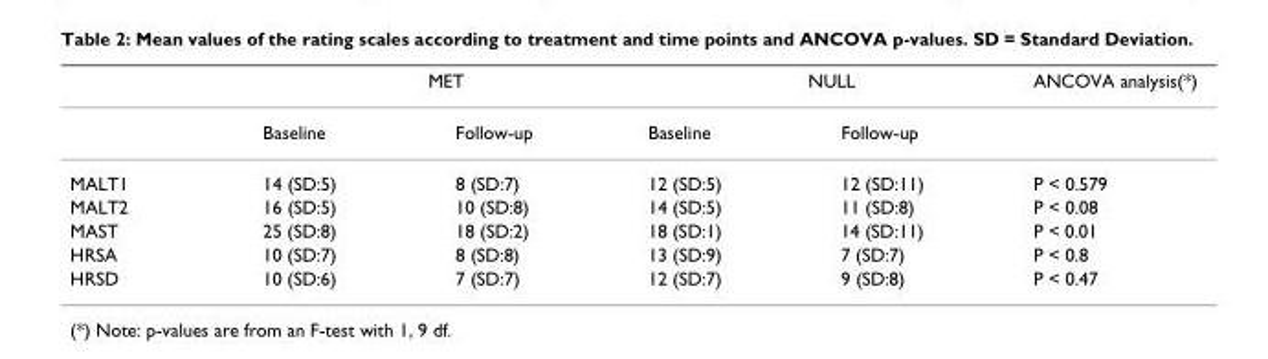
<table><thead><tr><td rowspan="2"></td><td colspan="2">MET</td><td colspan="2">NULL</td><td rowspan="2">ANCOVA analysis(*)</td></tr><tr><td>Baseline</td><td>Follow-up</td><td>Baseline</td><td>Follow-up</td></tr></thead><tbody><tr><td>MALT1</td><td>14 (SD:5)</td><td>8 (SD:7)</td><td>12 (SD:5)</td><td>12 (SD:11)</td><td>P &lt; 0.579</td></tr><tr><td>MALT2</td><td>16 (SD:5)</td><td>10 (SD:8)</td><td>14 (SD:5)</td><td>11 (SD:8)</td><td>P &lt; 0.08</td></tr><tr><td>MAST</td><td>25 (SD:8)</td><td>18 (SD:2)</td><td>18 (SD:1)</td><td>14 (SD:11)</td><td>P &lt; 0.01</td></tr><tr><td>HRSA</td><td>10 (SD:7)</td><td>8 (SD:8)</td><td>13 (SD:9)</td><td>7 (SD:7)</td><td>P &lt; 0.8</td></tr><tr><td>HRSD</td><td>10 (SD:6)</td><td>7 (SD:7)</td><td>12 (SD:7)</td><td>9 (SD:8)</td><td>P &lt; 0.47</td></tr></tbody></table>